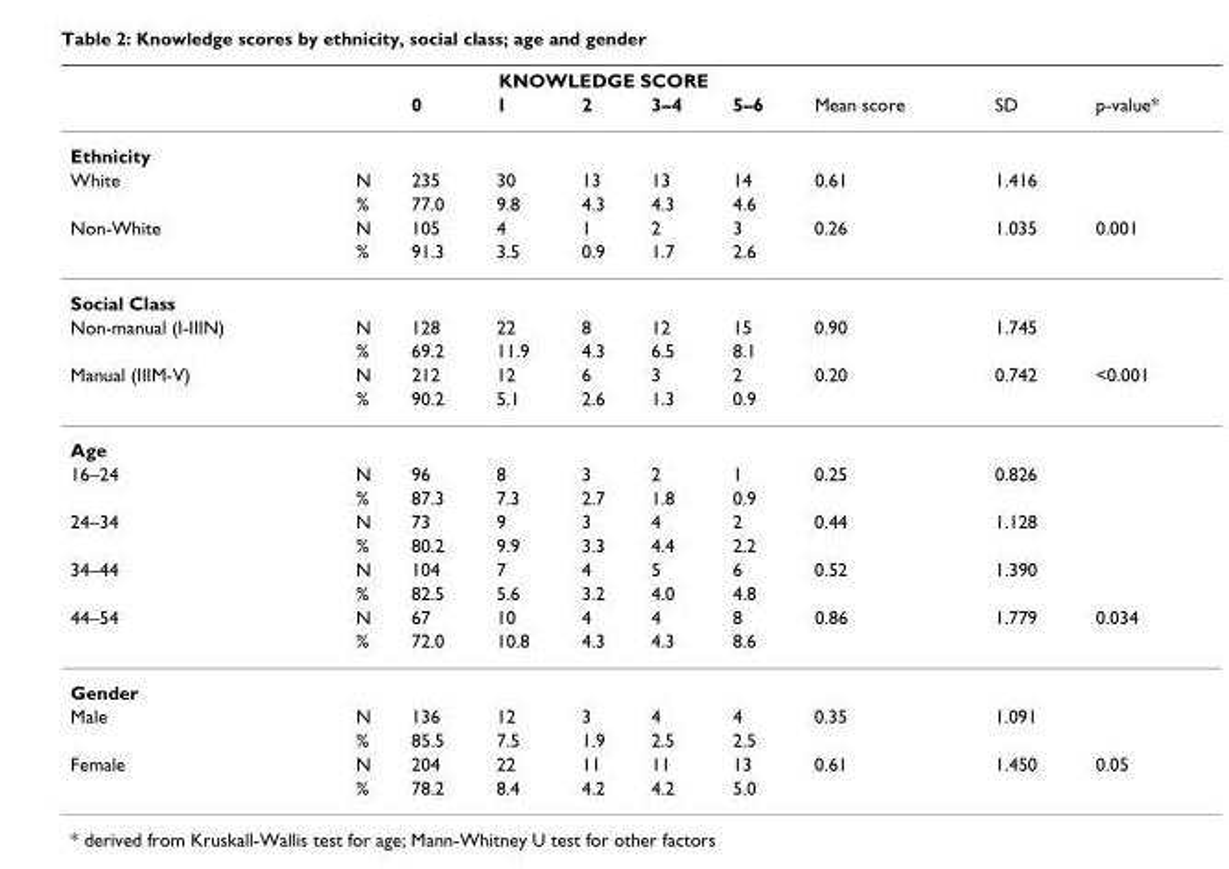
<table><thead><tr><td rowspan="2"></td><td rowspan="2"></td><td colspan="5">KNOWLEDGE SCORE</td><td rowspan="2">Mean score</td><td rowspan="2">SD</td><td rowspan="2">p-value*</td></tr><tr><td>0</td><td>1</td><td>2</td><td>3–4</td><td>5–6</td></tr></thead><tbody><tr><td colspan="10">Ethnicity</td></tr><tr><td rowspan="2">White</td><td>N</td><td>235</td><td>30</td><td>13</td><td>13</td><td>14</td><td>0.61</td><td>1.416</td><td></td></tr><tr><td>%</td><td>77.0</td><td>9.8</td><td>4.3</td><td>4.3</td><td>4.6</td><td></td><td></td><td></td></tr><tr><td rowspan="2">Non-White</td><td>N</td><td>105</td><td>4</td><td>1</td><td>2</td><td>3</td><td>0.26</td><td>1.035</td><td>0.001</td></tr><tr><td>%</td><td>91.3</td><td>3.5</td><td>0.9</td><td>1.7</td><td>2.6</td><td></td><td></td><td></td></tr><tr><td colspan="10">Social Class</td></tr><tr><td rowspan="2">Non-manual (I-IIIN)</td><td>N</td><td>128</td><td>22</td><td>8</td><td>12</td><td>15</td><td>0.90</td><td>1.745</td><td></td></tr><tr><td>%</td><td>69.2</td><td>11.9</td><td>4.3</td><td>6.5</td><td>8.1</td><td></td><td></td><td></td></tr><tr><td rowspan="2">Manual (IIIM-V)</td><td>N</td><td>212</td><td>12</td><td>6</td><td>3</td><td>2</td><td>0.20</td><td>0.742</td><td>&lt;0.001</td></tr><tr><td>%</td><td>90.2</td><td>5.1</td><td>2.6</td><td>1.3</td><td>0.9</td><td></td><td></td><td></td></tr><tr><td colspan="10">Age</td></tr><tr><td rowspan="2">16–24</td><td>N</td><td>96</td><td>8</td><td>3</td><td>2</td><td>1</td><td>0.25</td><td>0.826</td><td></td></tr><tr><td>%</td><td>87.3</td><td>7.3</td><td>2.7</td><td>1.8</td><td>0.9</td><td></td><td></td><td></td></tr><tr><td rowspan="2">24–34</td><td>N</td><td>73</td><td>9</td><td>3</td><td>4</td><td>2</td><td>0.44</td><td>1.128</td><td></td></tr><tr><td>%</td><td>80.2</td><td>9.9</td><td>3.3</td><td>4.4</td><td>2.2</td><td></td><td></td><td></td></tr><tr><td rowspan="2">34–44</td><td>N</td><td>104</td><td>7</td><td>4</td><td>5</td><td>6</td><td>0.52</td><td>1.390</td><td></td></tr><tr><td>%</td><td>82.5</td><td>5.6</td><td>3.2</td><td>4.0</td><td>4.8</td><td></td><td></td><td></td></tr><tr><td rowspan="2">44–54</td><td>N</td><td>67</td><td>10</td><td>4</td><td>4</td><td>8</td><td>0.86</td><td>1.779</td><td>0.034</td></tr><tr><td>%</td><td>72.0</td><td>10.8</td><td>4.3</td><td>4.3</td><td>8.6</td><td></td><td></td><td></td></tr><tr><td colspan="10">Gender</td></tr><tr><td rowspan="2">Male</td><td>N</td><td>136</td><td>12</td><td>3</td><td>4</td><td>4</td><td>0.35</td><td>1.091</td><td></td></tr><tr><td>%</td><td>85.5</td><td>7.5</td><td>1.9</td><td>2.5</td><td>2.5</td><td></td><td></td><td></td></tr><tr><td rowspan="2">Female</td><td>N</td><td>204</td><td>22</td><td>11</td><td>11</td><td>13</td><td>0.61</td><td>1.450</td><td>0.05</td></tr><tr><td>%</td><td>78.2</td><td>8.4</td><td>4.2</td><td>4.2</td><td>5.0</td><td></td><td></td><td></td></tr></tbody></table>